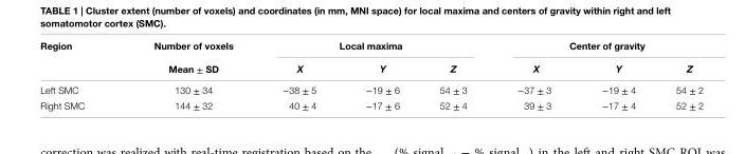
<table><thead><tr><td rowspan="2">region</td><td rowspan="2">number of voxels Mean ± sD</td><td colspan="3">local maxima</td><td colspan="3">center of gravity</td></tr><tr><td>X</td><td>Y</td><td>Z</td><td>X</td><td>Y</td><td>Z</td></tr></thead><tbody><tr><td>Left SMC</td><td>130 ± 34</td><td>−38 ± 5</td><td>−19 ± 6</td><td>54 ± 3</td><td>−37 ± 3</td><td>−19 ± 4</td><td>54 ± 2</td></tr><tr><td>Right SMC</td><td>144 ± 32</td><td>40 ± 4</td><td>−17 ± 6</td><td>52 ± 4</td><td>39 ± 3</td><td>−17 ± 4</td><td>52 ± 2</td></tr></tbody></table>